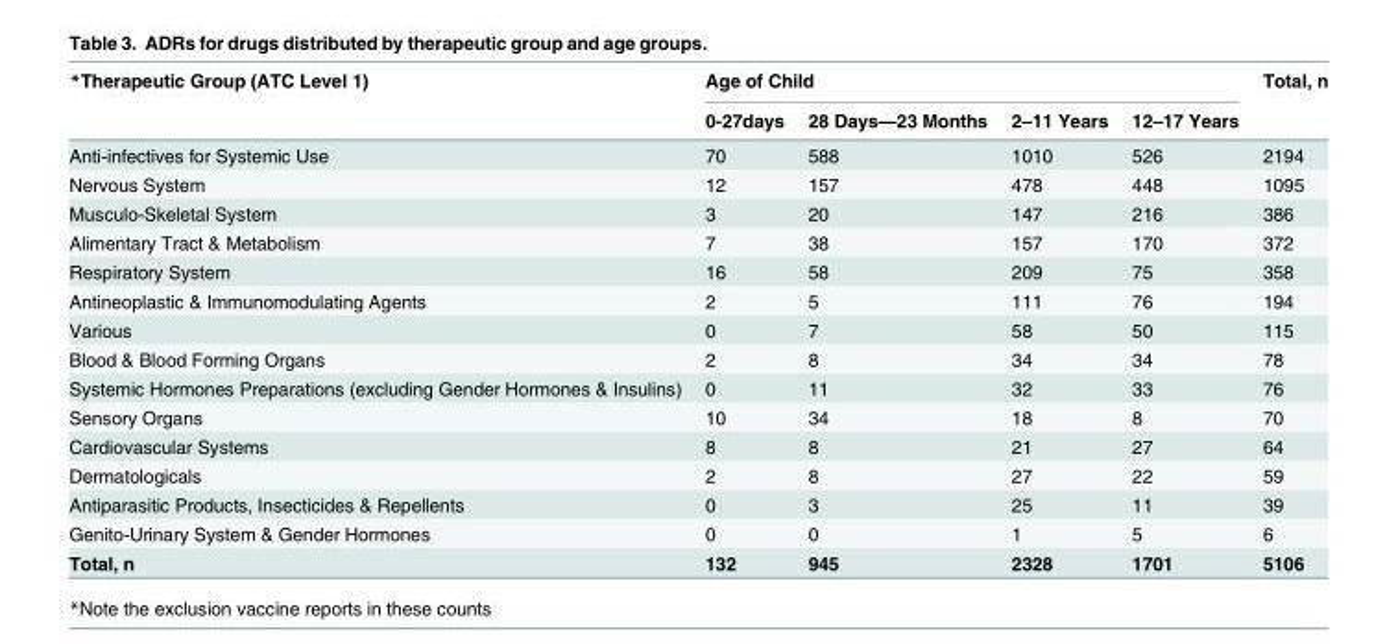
<table><thead><tr><td rowspan="2">*Therapeutic Group (ATC Level 1)</td><td colspan="4">Age of Child</td><td rowspan="2">Total, n</td></tr><tr><td>0-27days</td><td>28 Days—23 Months</td><td>2–11 Years</td><td>12–17 Years</td></tr></thead><tbody><tr><td>Anti-infectives for Systemic Use</td><td>70</td><td>588</td><td>1010</td><td>526</td><td>2194</td></tr><tr><td>Nervous System</td><td>12</td><td>157</td><td>478</td><td>448</td><td>1095</td></tr><tr><td>Musculo-Skeletal System</td><td>3</td><td>20</td><td>147</td><td>216</td><td>386</td></tr><tr><td>Alimentary Tract &amp; Metabolism</td><td>7</td><td>38</td><td>157</td><td>170</td><td>372</td></tr><tr><td>Respiratory System</td><td>16</td><td>58</td><td>209</td><td>75</td><td>358</td></tr><tr><td>Antineoplastic &amp; Immunomodulating Agents</td><td>2</td><td>5</td><td>111</td><td>76</td><td>194</td></tr><tr><td>Various</td><td>0</td><td>7</td><td>58</td><td>50</td><td>115</td></tr><tr><td>Blood &amp; Blood Forming Organs</td><td>2</td><td>8</td><td>34</td><td>34</td><td>78</td></tr><tr><td>Systemic Hormones Preparations (excluding Gender Hormones &amp; Insulins)</td><td>0</td><td>11</td><td>32</td><td>33</td><td>76</td></tr><tr><td>Sensory Organs</td><td>10</td><td>34</td><td>18</td><td>8</td><td>70</td></tr><tr><td>Cardiovascular Systems</td><td>8</td><td>8</td><td>21</td><td>27</td><td>64</td></tr><tr><td>Dermatologicals</td><td>2</td><td>8</td><td>27</td><td>22</td><td>59</td></tr><tr><td>Antiparasitic Products, Insecticides &amp; Repellents</td><td>0</td><td>3</td><td>25</td><td>11</td><td>39</td></tr><tr><td>Genito-Urinary System &amp; Gender Hormones</td><td>0</td><td>0</td><td>1</td><td>5</td><td>6</td></tr><tr><td>Total, n</td><td>132</td><td>945</td><td>2328</td><td>1701</td><td>5106</td></tr></tbody></table>